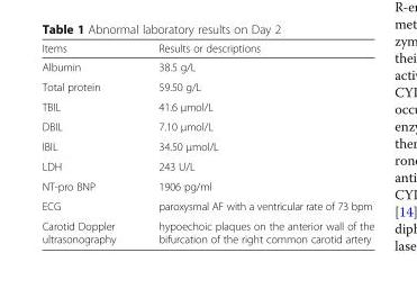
<table><thead><tr><td>Items</td><td>Results or descriptions</td></tr></thead><tbody><tr><td>Albumin</td><td>38.5 g/L</td></tr><tr><td>Total protein</td><td>59.50 g/L</td></tr><tr><td>TBIL</td><td>41.6 μmol/L</td></tr><tr><td>DBIL</td><td>7.10 μmol/L</td></tr><tr><td>IBIL</td><td>34.50 μmol/L</td></tr><tr><td>LDH</td><td>243 U/L</td></tr><tr><td>NT-pro BNP</td><td>1906 pg/ml</td></tr><tr><td>ECG</td><td>paroxysmal AF with a ventricular rate of 73 bpm</td></tr><tr><td>Carotid Doppler ultrasonography</td><td>hypoechoic plaques on the anterior wall of the bifurcation of the right common carotid artery</td></tr></tbody></table>